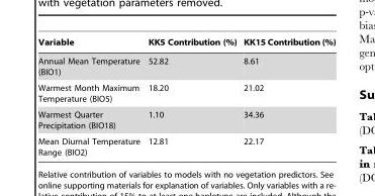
<table><thead><tr><td>Variable</td><td>KK5 Contribution (%)</td><td>KK15 Contribution (%)</td></tr></thead><tbody><tr><td>Annual Mean Temperature (BIO1)</td><td>52.82</td><td>8.61</td></tr><tr><td>Warmest Month Maximum Temperature (BIO5)</td><td>18.20</td><td>21.02</td></tr><tr><td>Warmest Quarter Precipitation (BIO18)</td><td>1.10</td><td>34.36</td></tr><tr><td>Mean Diurnal Temperature Range (BIO2)</td><td>12.81</td><td>22.17</td></tr></tbody></table>